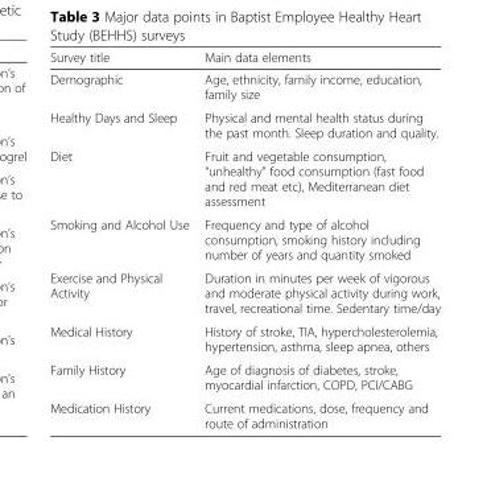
<table><thead><tr><td>Survey title</td><td>Main data elements</td></tr></thead><tbody><tr><td>Demographic</td><td>Age, ethnicity, family income, education, family size</td></tr><tr><td>Healthy Days and Sleep</td><td>Physical and mental health status during the past month. Sleep duration and quality.</td></tr><tr><td>Diet</td><td>Fruit and vegetable consumption, “unhealthy” food consumption (fast food and red meat etc), Mediterranean diet assessment</td></tr><tr><td>Smoking and Alcohol Use</td><td>Frequency and type of alcohol consumption, smoking history including number of years and quantity smoked</td></tr><tr><td>Exercise and Physical Activity</td><td>Duration in minutes per week of vigorous and moderate physical activity during work, travel, recreational time. Sedentary time/day</td></tr><tr><td>Medical History</td><td>History of stroke, TIA, hypercholesterolemia, hypertension, asthma, sleep apnea, others</td></tr><tr><td>Family History</td><td>Age of diagnosis of diabetes, stroke, myocardial infarction, COPD, PCI/CABG</td></tr><tr><td>Medication History</td><td>Current medications, dose, frequency and route of administration</td></tr></tbody></table>